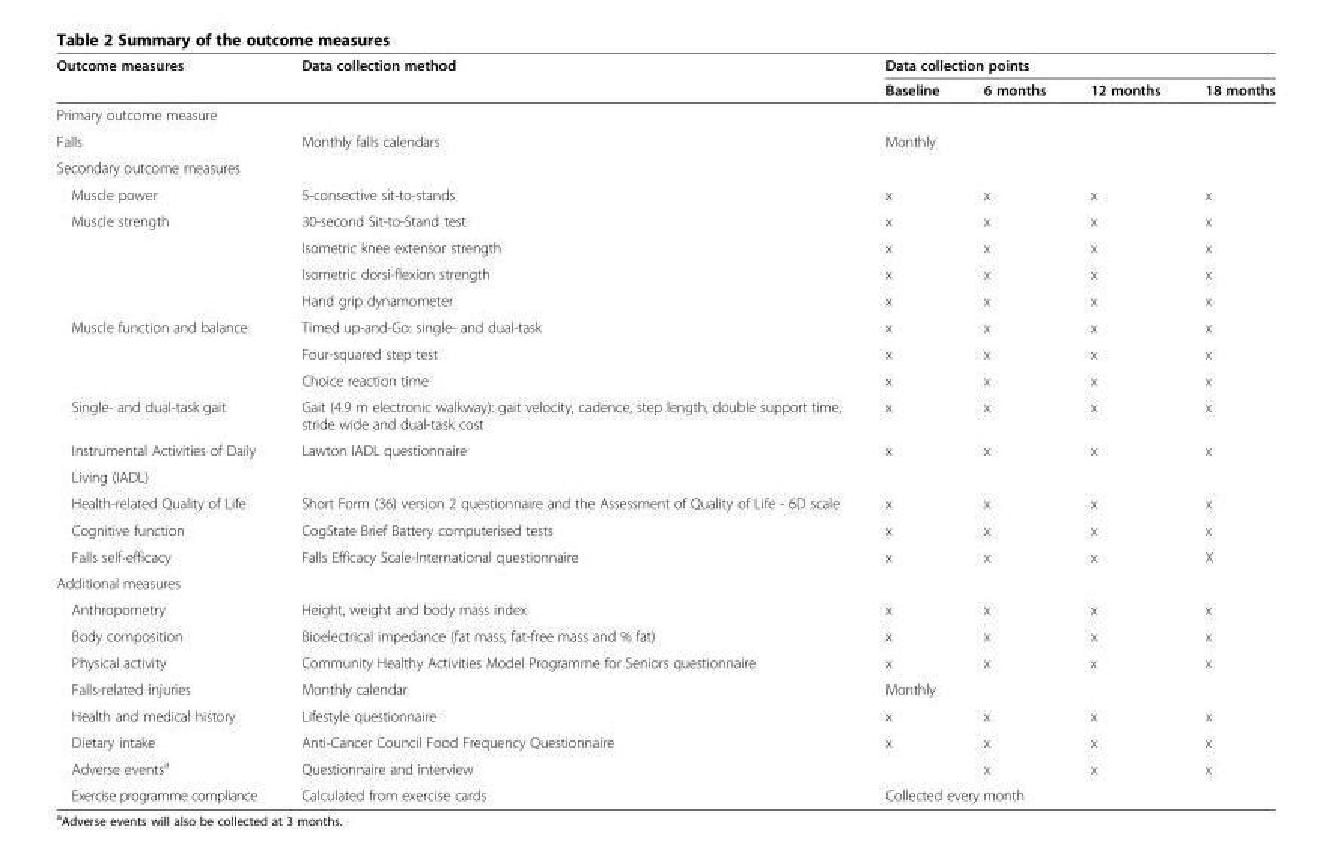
<table><thead><tr><td rowspan="2">Outcome measures</td><td rowspan="2">Data collection method</td><td colspan="4">Data collection points</td></tr><tr><td>Baseline</td><td>6 months</td><td>12 months</td><td>18 months</td></tr></thead><tbody><tr><td colspan="6">Primary outcome measure</td></tr><tr><td>Falls</td><td>Monthly falls calendars</td><td colspan="4">Monthly</td></tr><tr><td colspan="6">Secondary outcome measures</td></tr><tr><td>Muscle power</td><td>5-consective sit-to-stands</td><td>x</td><td>x</td><td>x</td><td>x</td></tr><tr><td rowspan="4">Muscle strength</td><td>30-second Sit-to-Stand test</td><td>x</td><td>x</td><td>x</td><td>x</td></tr><tr><td>Isometric knee extensor strength</td><td>x</td><td>x</td><td>x</td><td>x</td></tr><tr><td>Isometric dorsi-flexion strength</td><td>x</td><td>x</td><td>x</td><td>x</td></tr><tr><td>Hand grip dynamometer</td><td>x</td><td>x</td><td>x</td><td>x</td></tr><tr><td rowspan="3">Muscle function and balance</td><td>Timed up-and-Go: single- and dual-task</td><td>x</td><td>x</td><td>x</td><td>x</td></tr><tr><td>Four-squared step test</td><td>x</td><td>x</td><td>x</td><td>x</td></tr><tr><td>Choice reaction time</td><td>x</td><td>x</td><td>x</td><td>x</td></tr><tr><td>Single- and dual-task gait</td><td>Gait (4.9 m electronic walkway): gait velocity, cadence, step length, double support time, stride wide and dual-task cost</td><td>x</td><td>x</td><td>x</td><td>x</td></tr><tr><td>Instrumental Activities of Daily</td><td rowspan="2">Lawton IADL questionnaire</td><td rowspan="2">x</td><td rowspan="2">x</td><td rowspan="2">x</td><td rowspan="2">x</td></tr><tr><td>Living (IADL)</td></tr><tr><td>Health-related Quality of Life</td><td>Short Form (36) version 2 questionnaire and the Assessment of Quality of Life - 6D scale</td><td>x</td><td>x</td><td>x</td><td>x</td></tr><tr><td>Cognitive function</td><td>CogState Brief Battery computerised tests</td><td>x</td><td>x</td><td>x</td><td>x</td></tr><tr><td>Falls self-efficacy</td><td>Falls Efficacy Scale-International questionnaire</td><td>x</td><td>x</td><td>x</td><td>X</td></tr><tr><td colspan="6">Additional measures</td></tr><tr><td>Anthropometry</td><td>Height, weight and body mass index</td><td>x</td><td>x</td><td>x</td><td>x</td></tr><tr><td>Body composition</td><td>Bioelectrical impedance (fat mass, fat-free mass and % fat)</td><td>x</td><td>x</td><td>x</td><td>x</td></tr><tr><td>Physical activity</td><td>Community Healthy Activities Model Programme for Seniors questionnaire</td><td>x</td><td>x</td><td>x</td><td>x</td></tr><tr><td>Falls-related injuries</td><td>Monthly calendar</td><td colspan="4">Monthly</td></tr><tr><td>Health and medical history</td><td>Lifestyle questionnaire</td><td>x</td><td>x</td><td>x</td><td>x</td></tr><tr><td>Dietary intake</td><td>Anti-Cancer Council Food Frequency Questionnaire</td><td>x</td><td>x</td><td>x</td><td>x</td></tr><tr><td>Adverse events<sup>a</sup></td><td>Questionnaire and interview</td><td></td><td>x</td><td>x</td><td>x</td></tr><tr><td>Exercise programme compliance</td><td>Calculated from exercise cards</td><td colspan="4">Collected every month</td></tr></tbody></table>